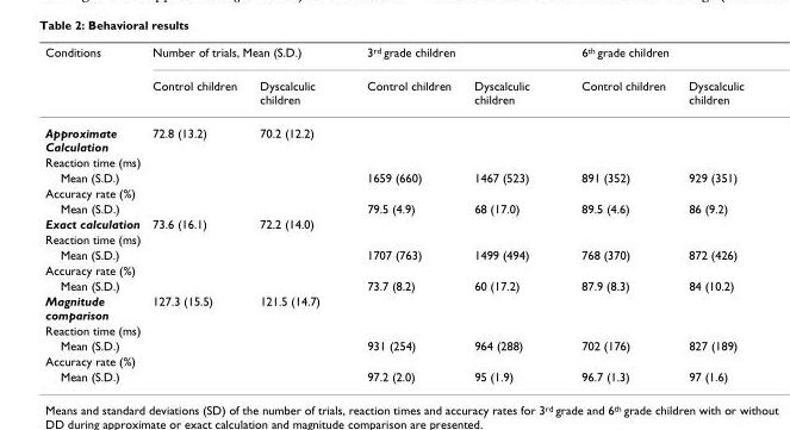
<table><thead><tr><td rowspan="2">Conditions</td><td colspan="2">Number of trials, Mean (S.D.)</td><td colspan="2">3<sup>rd</sup> grade children</td><td colspan="2">6<sup>th</sup> grade children</td></tr><tr><td>Control children</td><td>Dyscalculic children</td><td>Control children</td><td>Dyscalculic children</td><td>Control children</td><td>Dyscalculic children</td></tr></thead><tbody><tr><td>Approximate Calculation</td><td>72.8 (13.2)</td><td>70.2 (12.2)</td><td></td><td></td><td></td><td></td></tr><tr><td colspan="7">Reaction time (ms)</td></tr><tr><td>Mean (S.D.)</td><td></td><td></td><td>1659 (660)</td><td>1467 (523)</td><td>891 (352)</td><td>929 (351)</td></tr><tr><td colspan="7">Accuracy rate (%)</td></tr><tr><td>Mean (S.D.)</td><td></td><td></td><td>79.5 (4.9)</td><td>68 (17.0)</td><td>89.5 (4.6)</td><td>86 (9.2)</td></tr><tr><td>Exact calculation</td><td>73.6 (16.1)</td><td>72.2 (14.0)</td><td></td><td></td><td></td><td></td></tr><tr><td colspan="7">Reaction time (ms)</td></tr><tr><td>Mean (S.D.)</td><td></td><td></td><td>1707 (763)</td><td>1499 (494)</td><td>768 (370)</td><td>872 (426)</td></tr><tr><td colspan="7">Accuracy rate (%)</td></tr><tr><td>Mean (S.D.)</td><td></td><td></td><td>73.7 (8.2)</td><td>60 (17.2)</td><td>87.9 (8.3)</td><td>84 (10.2)</td></tr><tr><td>Magnitude comparison</td><td>127.3 (15.5)</td><td>121.5 (14.7)</td><td></td><td></td><td></td><td></td></tr><tr><td colspan="7">Reaction time (ms)</td></tr><tr><td>Mean (S.D.)</td><td></td><td></td><td>931 (254)</td><td>964 (288)</td><td>702 (176)</td><td>827 (189)</td></tr><tr><td colspan="7">Accuracy rate (%)</td></tr><tr><td>Mean (S.D.)</td><td></td><td></td><td>97.2 (2.0)</td><td>95 (1.9)</td><td>96.7 (1.3)</td><td>97 (1.6)</td></tr></tbody></table>